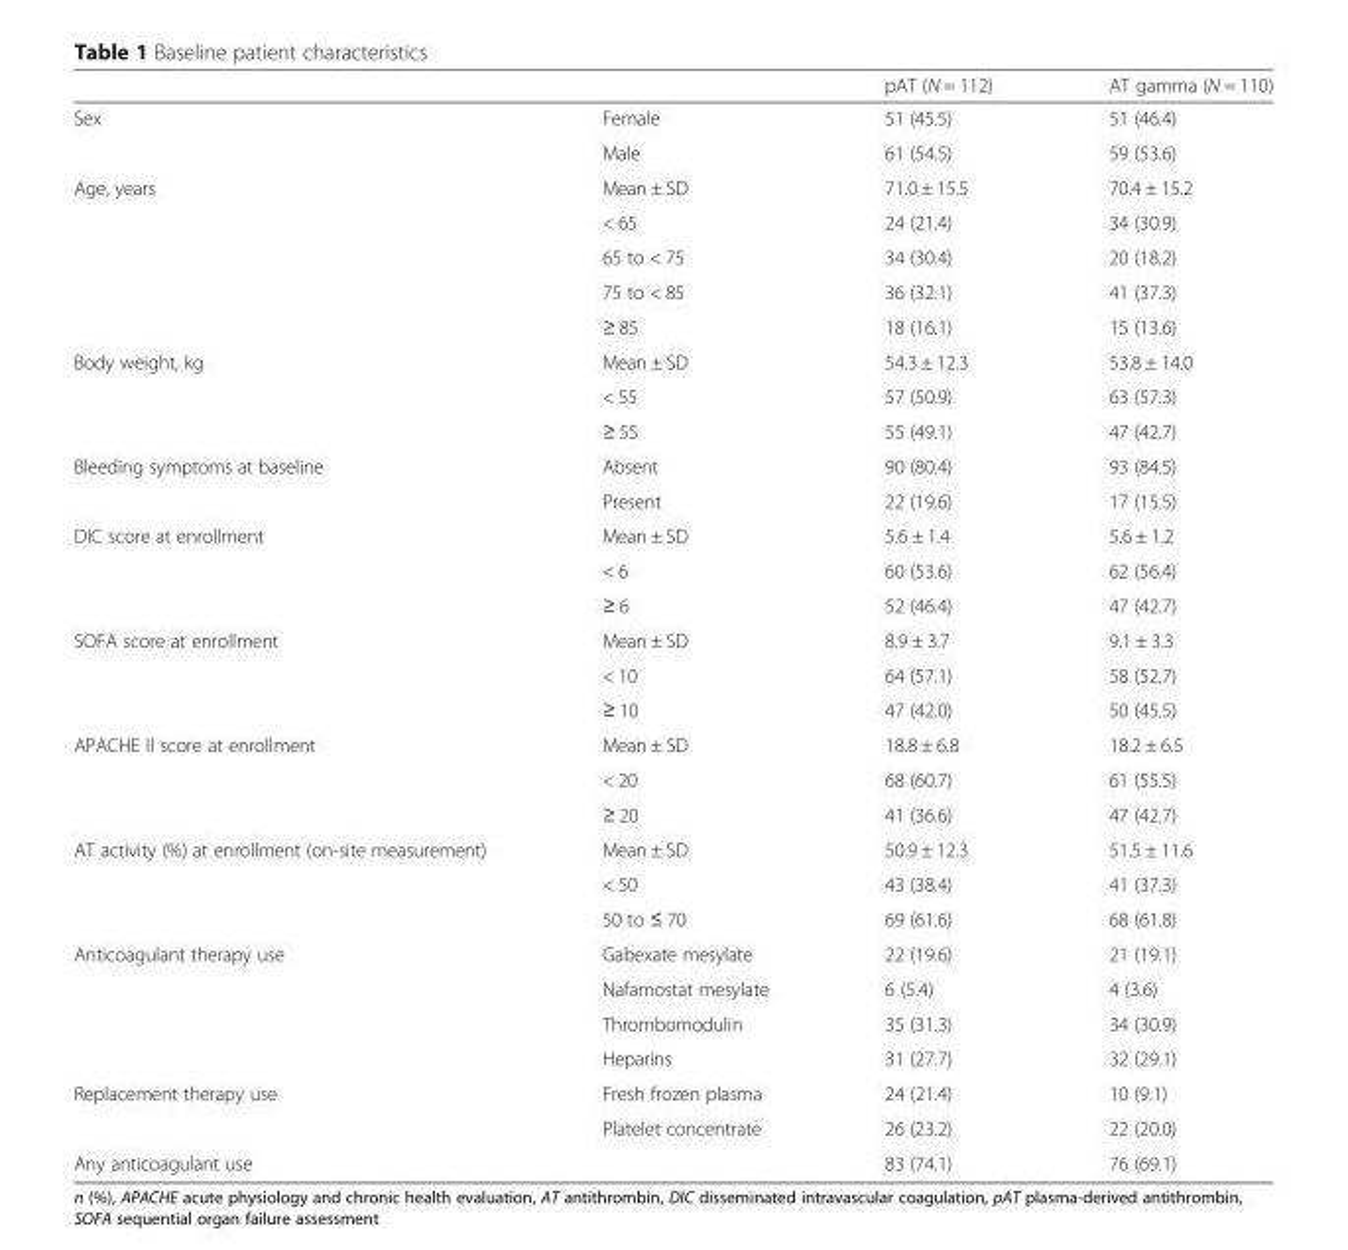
<table><thead><tr><td></td><td></td><td>pAT (N = 112)</td><td>AT gamma (N = 110)</td></tr></thead><tbody><tr><td rowspan="2">Sex</td><td>Female</td><td>51 (45.5)</td><td>51 (46.4)</td></tr><tr><td>Male</td><td>61 (54.5)</td><td>59 (53.6)</td></tr><tr><td rowspan="5">Age, years</td><td>Mean ± SD</td><td>71.0 ± 15.5</td><td>70.4 ± 15.2</td></tr><tr><td>&lt; 65</td><td>24 (21.4)</td><td>34 (30.9)</td></tr><tr><td>65 to &lt; 75</td><td>34 (30.4)</td><td>20 (18.2)</td></tr><tr><td>75 to &lt; 85</td><td>36 (32.1)</td><td>41 (37.3)</td></tr><tr><td>≥ 85</td><td>18 (16.1)</td><td>15 (13.6)</td></tr><tr><td rowspan="3">Body weight, kg</td><td>Mean ± SD</td><td>54.3 ± 12.3</td><td>53.8 ± 14.0</td></tr><tr><td>&lt; 55</td><td>57 (50.9)</td><td>63 (57.3)</td></tr><tr><td>≥ 55</td><td>55 (49.1)</td><td>47 (42.7)</td></tr><tr><td rowspan="2">Bleeding symptoms at baseline</td><td>Absent</td><td>90 (80.4)</td><td>93 (84.5)</td></tr><tr><td>Present</td><td>22 (19.6)</td><td>17 (15.5)</td></tr><tr><td rowspan="3">DIC score at enrollment</td><td>Mean ± SD</td><td>5.6 ± 1.4</td><td>5.6 ± 1.2</td></tr><tr><td>&lt; 6</td><td>60 (53.6)</td><td>62 (56.4)</td></tr><tr><td>≥ 6</td><td>52 (46.4)</td><td>47 (42.7)</td></tr><tr><td rowspan="3">SOFA score at enrollment</td><td>Mean ± SD</td><td>8.9 ± 3.7</td><td>9.1 ± 3.3</td></tr><tr><td>&lt; 10</td><td>64 (57.1)</td><td>58 (52.7)</td></tr><tr><td>≥ 10</td><td>47 (42.0)</td><td>50 (45.5)</td></tr><tr><td rowspan="3">APACHE II score at enrollment</td><td>Mean ± SD</td><td>18.8 ± 6.8</td><td>18.2 ± 6.5</td></tr><tr><td>&lt; 20</td><td>68 (60.7)</td><td>61 (55.5)</td></tr><tr><td>≥ 20</td><td>41 (36.6)</td><td>47 (42.7)</td></tr><tr><td rowspan="3">AT activity (%) at enrollment (on-site measurement)</td><td>Mean ± SD</td><td>50.9 ± 12.3</td><td>51.5 ± 11.6</td></tr><tr><td>&lt; 50</td><td>43 (38.4)</td><td>41 (37.3)</td></tr><tr><td>50 to ≤ 70</td><td>69 (61.6)</td><td>68 (61.8)</td></tr><tr><td rowspan="4">Anticoagulant therapy use</td><td>Gabexate mesylate</td><td>22 (19.6)</td><td>21 (19.1)</td></tr><tr><td>Nafamostat mesylate</td><td>6 (5.4)</td><td>4 (3.6)</td></tr><tr><td>Thrombomodulin</td><td>35 (31.3)</td><td>34 (30.9)</td></tr><tr><td>Heparins</td><td>31 (27.7)</td><td>32 (29.1)</td></tr><tr><td rowspan="2">Replacement therapy use</td><td>Fresh frozen plasma</td><td>24 (21.4)</td><td>10 (9.1)</td></tr><tr><td>Platelet concentrate</td><td>26 (23.2)</td><td>22 (20.0)</td></tr><tr><td>Any anticoagulant use</td><td></td><td>83 (74.1)</td><td>76 (69.1)</td></tr></tbody></table>